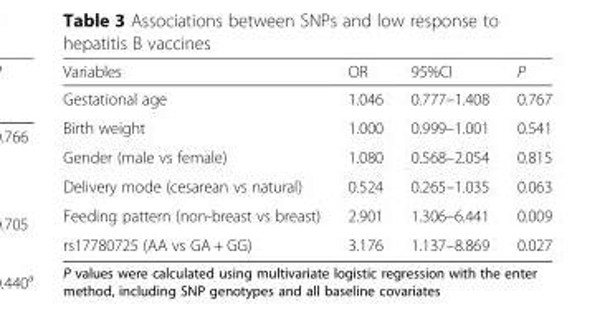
<table><thead><tr><td>Variables</td><td>OR</td><td>95%CI</td><td>P</td></tr></thead><tbody><tr><td>Gestational age</td><td>1.046</td><td>0.777–1.408</td><td>0.767</td></tr><tr><td>Birth weight</td><td>1.000</td><td>0.999–1.001</td><td>0.541</td></tr><tr><td>Gender (male vs female)</td><td>1.080</td><td>0.568–2.054</td><td>0.815</td></tr><tr><td>Delivery mode (cesarean vs natural)</td><td>0.524</td><td>0.265–1.035</td><td>0.063</td></tr><tr><td>Feeding pattern (non-breast vs breast)</td><td>2.901</td><td>1.306–6.441</td><td>0.009</td></tr><tr><td>rs17780725 (AA vs GA + GG)</td><td>3.176</td><td>1.137–8.869</td><td>0.027</td></tr></tbody></table>